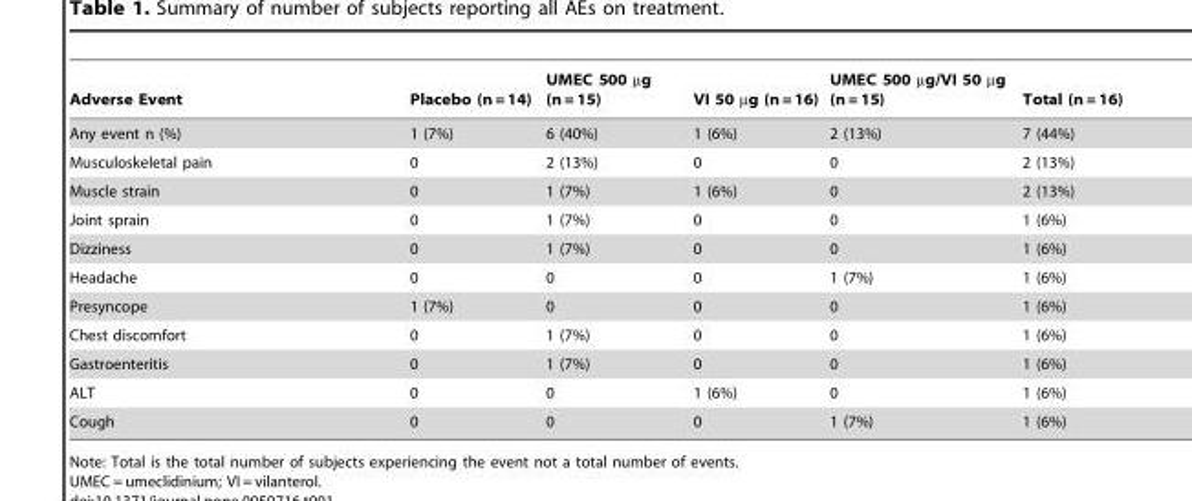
<table><thead><tr><td>Adverse Event</td><td>Placebo (n = 14)</td><td>UMEC 500 µg (n = 15)</td><td>VI 50 µg (n = 16)</td><td>UMEC 500 µg/VI 50 µg (n = 15)</td><td>Total (n = 16)</td></tr></thead><tbody><tr><td>Any event n (%)</td><td>1 (7%)</td><td>6 (40%)</td><td>1 (6%)</td><td>2 (13%)</td><td>7 (44%)</td></tr><tr><td>Musculoskeletal pain</td><td>0</td><td>2 (13%)</td><td>0</td><td>0</td><td>2 (13%)</td></tr><tr><td>Muscle strain</td><td>0</td><td>1 (7%)</td><td>1 (6%)</td><td>0</td><td>2 (13%)</td></tr><tr><td>Joint sprain</td><td>0</td><td>1 (7%)</td><td>0</td><td>0</td><td>1 (6%)</td></tr><tr><td>Dizziness</td><td>0</td><td>1 (7%)</td><td>0</td><td>0</td><td>1 (6%)</td></tr><tr><td>Headache</td><td>0</td><td>0</td><td>0</td><td>1 (7%)</td><td>1 (6%)</td></tr><tr><td>Presyncope</td><td>1 (7%)</td><td>0</td><td>0</td><td>0</td><td>1 (6%)</td></tr><tr><td>Chest discomfort</td><td>0</td><td>1 (7%)</td><td>0</td><td>0</td><td>1 (6%)</td></tr><tr><td>Gastroenteritis</td><td>0</td><td>1 (7%)</td><td>0</td><td>0</td><td>1 (6%)</td></tr><tr><td>ALT</td><td>0</td><td>0</td><td>1 (6%)</td><td>0</td><td>1 (6%)</td></tr><tr><td>Cough</td><td>0</td><td>0</td><td>0</td><td>1 (7%)</td><td>1 (6%)</td></tr></tbody></table>